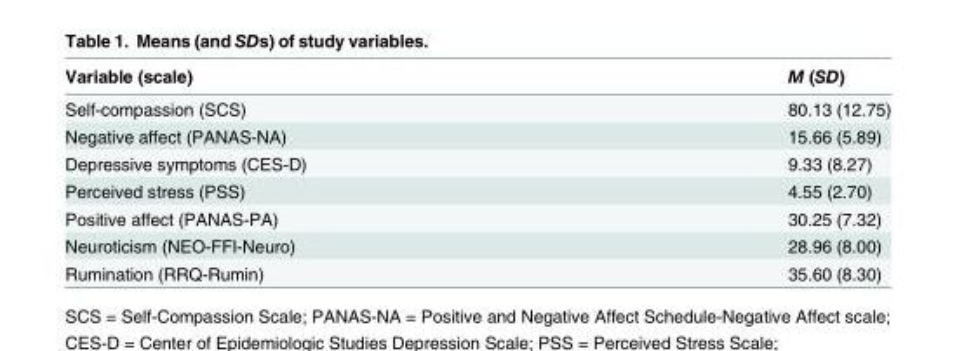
<table><thead><tr><td>Variable (scale)</td><td>M (SD)</td></tr></thead><tbody><tr><td>Self-compassion (SCS)</td><td>80.13 (12.75)</td></tr><tr><td>Negative affect (PANAS-NA)</td><td>15.66 (5.89)</td></tr><tr><td>Depressive symptoms (CES-D)</td><td>9.33 (8.27)</td></tr><tr><td>Perceived stress (PSS)</td><td>4.55 (2.70)</td></tr><tr><td>Positive affect (PANAS-PA)</td><td>30.25 (7.32)</td></tr><tr><td>Neuroticism (NEO-FFI-Neuro)</td><td>28.96 (8.00)</td></tr><tr><td>Rumination (RRQ-Rumin)</td><td>35.60 (8.30)</td></tr></tbody></table>